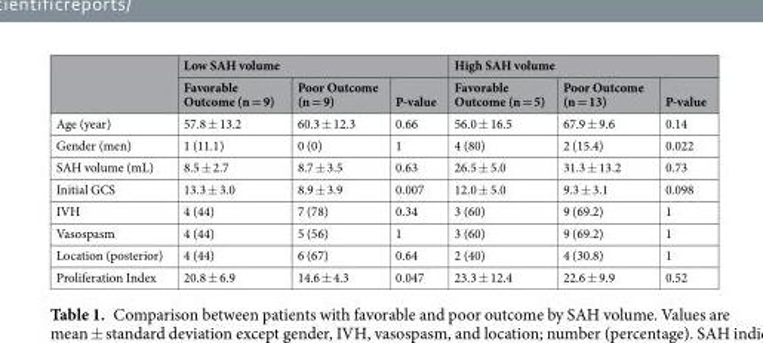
<table><thead><tr><td rowspan="2"></td><td colspan="3">Low SAH volume</td><td colspan="3">High SAH volume</td></tr><tr><td>Favorable Outcome (n = 9)</td><td>Poor Outcome (n = 9)</td><td>P-value</td><td>Favorable Outcome (n = 5)</td><td>Poor Outcome (n = 13)</td><td>P-value</td></tr></thead><tbody><tr><td>Age (year)</td><td>57.8 ± 13.2</td><td>60.3 ± 12.3</td><td>0.66</td><td>56.0 ± 16.5</td><td>67.9 ± 9.6</td><td>0.14</td></tr><tr><td>Gender (men)</td><td>1 (11.1)</td><td>0 (0)</td><td>1</td><td>4 (80)</td><td>2 (15.4)</td><td>0.022</td></tr><tr><td>SAH volume (mL)</td><td>8.5 ± 2.7</td><td>8.7 ± 3.5</td><td>0.63</td><td>26.5 ± 5.0</td><td>31.3 ± 13.2</td><td>0.73</td></tr><tr><td>Initial GCS</td><td>13.3 ± 3.0</td><td>8.9 ± 3.9</td><td>0.007</td><td>12.0 ± 5.0</td><td>9.3 ± 3.1</td><td>0.098</td></tr><tr><td>IVH</td><td>4 (44)</td><td>7 (78)</td><td>0.34</td><td>3 (60)</td><td>9 (69.2)</td><td>1</td></tr><tr><td>Vasospasm</td><td>4 (44)</td><td>5 (56)</td><td>1</td><td>3 (60)</td><td>9 (69.2)</td><td>1</td></tr><tr><td>Location (posterior)</td><td>4 (44)</td><td>6 (67)</td><td>0.64</td><td>2 (40)</td><td>4 (30.8)</td><td>1</td></tr><tr><td>Proliferation Index</td><td>20.8 ± 6.9</td><td>14.6 ± 4.3</td><td>0.047</td><td>23.3 ± 12.4</td><td>22.6 ± 9.9</td><td>0.52</td></tr></tbody></table>